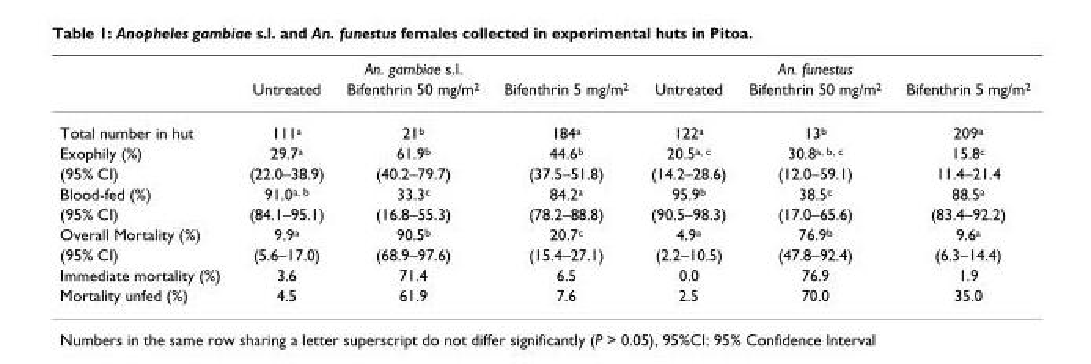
<table><thead><tr><td rowspan="2"></td><td rowspan="2">Untreated</td><td rowspan="2">An. gambiae s.l. Bifenthrin 50 mg/m<sup>2</sup></td><td rowspan="2">Bifenthrin 5 mg/m<sup>2</sup></td><td rowspan="2">Untreated</td><td rowspan="2">An. funestus Bifenthrin 50 mg/m<sup>2</sup></td><td rowspan="2">Bifenthrin 5 mg/m<sup>2</sup></td></tr><tr></tr></thead><tbody><tr><td>Total number in hut</td><td>111<sup>a</sup></td><td>21<sup>b</sup></td><td>184<sup>a</sup></td><td>122<sup>a</sup></td><td>13<sup>b</sup></td><td>209<sup>a</sup></td></tr><tr><td>Exophily (%)</td><td>29.7<sup>a</sup></td><td>61.9<sup>b</sup></td><td>44.6<sup>b</sup></td><td>20.5<sup>a, c</sup></td><td>30.8<sup>a, b, c</sup></td><td>15.8<sup>c</sup></td></tr><tr><td>(95% CI)</td><td>(22.0–38.9)</td><td>(40.2–79.7)</td><td>(37.5–51.8)</td><td>(14.2–28.6)</td><td>(12.0–59.1)</td><td>11.4–21.4</td></tr><tr><td>Blood-fed (%)</td><td>91.0<sup>a, b</sup></td><td>33.3<sup>c</sup></td><td>84.2<sup>a</sup></td><td>95.9<sup>b</sup></td><td>38.5<sup>c</sup></td><td>88.5<sup>a</sup></td></tr><tr><td>(95% CI)</td><td>(84.1–95.1)</td><td>(16.8–55.3)</td><td>(78.2–88.8)</td><td>(90.5–98.3)</td><td>(17.0–65.6)</td><td>(83.4–92.2)</td></tr><tr><td>Overall Mortality (%)</td><td>9.9<sup>a</sup></td><td>90.5<sup>b</sup></td><td>20.7<sup>c</sup></td><td>4.9<sup>a</sup></td><td>76.9<sup>b</sup></td><td>9.6<sup>a</sup></td></tr><tr><td>(95% CI)</td><td>(5.6–17.0)</td><td>(68.9–97.6)</td><td>(15.4–27.1)</td><td>(2.2–10.5)</td><td>(47.8–92.4)</td><td>(6.3–14.4)</td></tr><tr><td>Immediate mortality (%)</td><td>3.6</td><td>71.4</td><td>6.5</td><td>0.0</td><td>76.9</td><td>1.9</td></tr><tr><td>Mortality unfed (%)</td><td>4.5</td><td>61.9</td><td>7.6</td><td>2.5</td><td>70.0</td><td>35.0</td></tr></tbody></table>